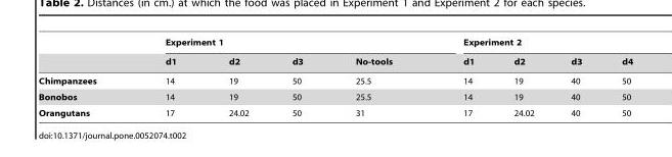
<table><thead><tr><td rowspan="2"></td><td colspan="4">Experiment 1</td><td colspan="4">Experiment 2</td></tr><tr><td>d1</td><td>d2</td><td>d3</td><td>No-tools</td><td>d1</td><td>d2</td><td>d3</td><td>d4</td></tr></thead><tbody><tr><td>Chimpanzees</td><td>14</td><td>19</td><td>50</td><td>25.5</td><td>14</td><td>19</td><td>40</td><td>50</td></tr><tr><td>Bonobos</td><td>14</td><td>19</td><td>50</td><td>25.5</td><td>14</td><td>19</td><td>40</td><td>50</td></tr><tr><td>Orangutans</td><td>17</td><td>24.02</td><td>50</td><td>31</td><td>17</td><td>24.02</td><td>40</td><td>50</td></tr></tbody></table>